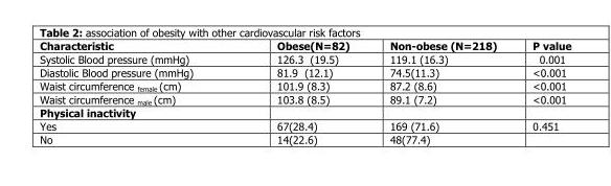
<table><thead><tr><td>Characteristic</td><td>Obese(N=82)</td><td>Non-obese (N=218)</td><td>P value</td></tr></thead><tbody><tr><td>Systolic Blood pressure (mmHg)</td><td>126.3 (19.5)</td><td>119.1 (16.3)</td><td>0.001</td></tr><tr><td>Diastolic Blood pressure (mmHg)</td><td>81.9 (12.1)</td><td>74.5(11.3)</td><td>&lt;0.001</td></tr><tr><td>Waist circumference <sub>female</sub> (cm)</td><td>101.9 (8.3)</td><td>87.2 (8.6)</td><td>&lt;0.001</td></tr><tr><td>Waist circumference <sub>male</sub> (cm)</td><td>103.8 (8.5)</td><td>89.1 (7.2)</td><td>&lt;0.001</td></tr><tr><td colspan="4">Physical inactivity</td></tr><tr><td>Yes</td><td>67(28.4)</td><td>169 (71.6)</td><td>0.451</td></tr><tr><td>No</td><td>14(22.6)</td><td>48(77.4)</td><td></td></tr></tbody></table>